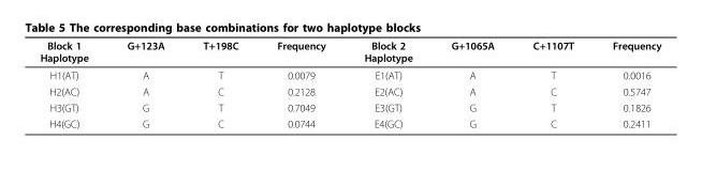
<table><thead><tr><td>Block 1 Haplotype</td><td>G+123A</td><td>T+198C</td><td>Frequency</td><td>Block 2 Haplotype</td><td>G+1065A</td><td>C+1107T</td><td>Frequency</td></tr></thead><tbody><tr><td>H1(AT)</td><td>A</td><td>T</td><td>0.0079</td><td>E1(AT)</td><td>A</td><td>T</td><td>0.0016</td></tr><tr><td>H2(AC)</td><td>A</td><td>C</td><td>0.2128</td><td>E2(AC)</td><td>A</td><td>C</td><td>0.5747</td></tr><tr><td>H3(GT)</td><td>G</td><td>T</td><td>0.7049</td><td>E3(GT)</td><td>G</td><td>T</td><td>0.1826</td></tr><tr><td>H4(GC)</td><td>G</td><td>C</td><td>0.0744</td><td>E4(GC)</td><td>G</td><td>C</td><td>0.2411</td></tr></tbody></table>